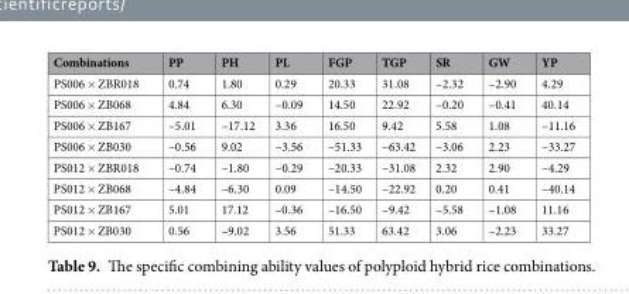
<table><thead><tr><td>Combinations</td><td>PP</td><td>PH</td><td>PL</td><td>FGP</td><td>TGP</td><td>SR</td><td>GW</td><td>YP</td></tr></thead><tbody><tr><td>PS006 × ZBR018</td><td>0.74</td><td>1.80</td><td>0.29</td><td>20.33</td><td>31.08</td><td>–2.32</td><td>–2.90</td><td>4.29</td></tr><tr><td>PS006 × ZB068</td><td>4.84</td><td>6.30</td><td>–0.09</td><td>14.50</td><td>22.92</td><td>–0.20</td><td>–0.41</td><td>40.14</td></tr><tr><td>PS006 × ZB167</td><td>–5.01</td><td>–17.12</td><td>3.36</td><td>16.50</td><td>9.42</td><td>5.58</td><td>1.08</td><td>–11.16</td></tr><tr><td>PS006 × ZB030</td><td>–0.56</td><td>9.02</td><td>–3.56</td><td>–51.33</td><td>–63.42</td><td>–3.06</td><td>2.23</td><td>–33.27</td></tr><tr><td>PS012 × ZBR018</td><td>–0.74</td><td>–1.80</td><td>–0.29</td><td>–20.33</td><td>–31.08</td><td>2.32</td><td>2.90</td><td>–4.29</td></tr><tr><td>PS012 × ZB068</td><td>–4.84</td><td>–6.30</td><td>0.09</td><td>–14.50</td><td>–22.92</td><td>0.20</td><td>0.41</td><td>–40.14</td></tr><tr><td>PS012 × ZB167</td><td>5.01</td><td>17.12</td><td>–0.36</td><td>–16.50</td><td>–9.42</td><td>–5.58</td><td>–1.08</td><td>11.16</td></tr><tr><td>PS012 × ZB030</td><td>0.56</td><td>–9.02</td><td>3.56</td><td>51.33</td><td>63.42</td><td>3.06</td><td>–2.23</td><td>33.27</td></tr></tbody></table>